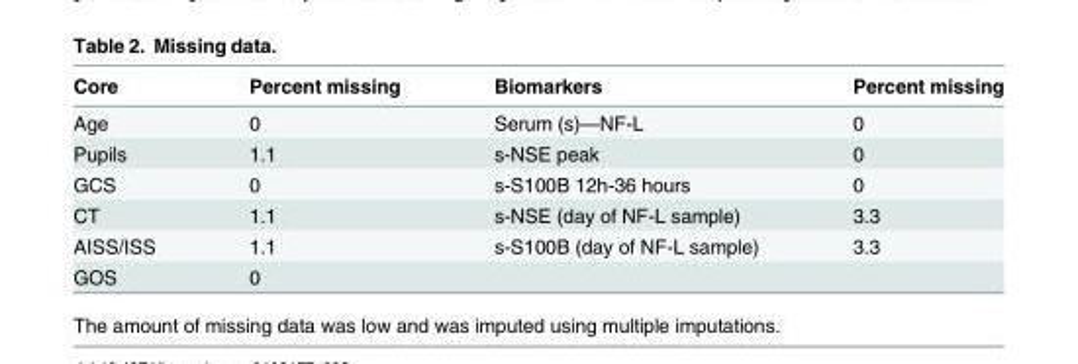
<table><thead><tr><td>Core</td><td>Percent missing</td><td>Biomarkers</td><td>Percent missing</td></tr></thead><tbody><tr><td>Age</td><td>0</td><td>Serum (s)—NF-L</td><td>0</td></tr><tr><td>Pupils</td><td>1.1</td><td>s-NSE peak</td><td>0</td></tr><tr><td>GCS</td><td>0</td><td>s-S100B 12h-36 hours</td><td>0</td></tr><tr><td>CT</td><td>1.1</td><td>s-NSE (day of NF-L sample)</td><td>3.3</td></tr><tr><td>AISS/ISS</td><td>1.1</td><td>s-S100B (day of NF-L sample)</td><td>3.3</td></tr><tr><td>GOS</td><td>0</td><td></td><td></td></tr></tbody></table>